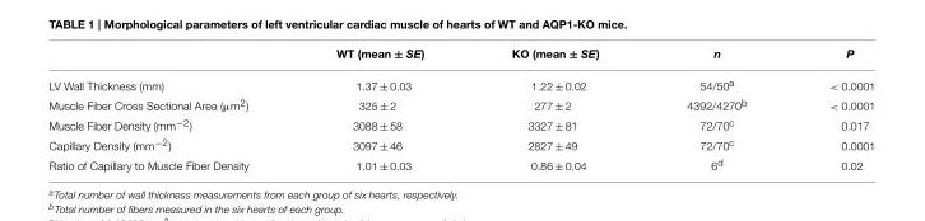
<table><thead><tr><td></td><td>WT (mean ± SE)</td><td>KO (mean ± SE)</td><td>n</td><td>P</td></tr></thead><tbody><tr><td>LV Wall Thickness (mm)</td><td>1.37 ± 0.03</td><td>1.22 ± 0.02</td><td>54/50<sup>a</sup></td><td>&lt; 0.0001</td></tr><tr><td>Muscle Fiber Cross Sectional Area (µm<sup>2</sup>)</td><td>325 ± 2</td><td>277 ± 2</td><td>4392/4270<sup>b</sup></td><td>&lt; 0.0001</td></tr><tr><td>Muscle Fiber Density (mm<sup>−2</sup>)</td><td>3088 ± 58</td><td>3327 ± 81</td><td>72/70<sup>c</sup></td><td>0.017</td></tr><tr><td>Capillary Density (mm<sup>−2</sup>)</td><td>3097 ± 46</td><td>2827 ± 49</td><td>72/70<sup>c</sup></td><td>0.0001</td></tr><tr><td>Ratio of Capillary to Muscle Fiber Density</td><td>1.01 ± 0.03</td><td>0.86 ± 0.04</td><td>6<sup>d</sup></td><td>0.02</td></tr></tbody></table>